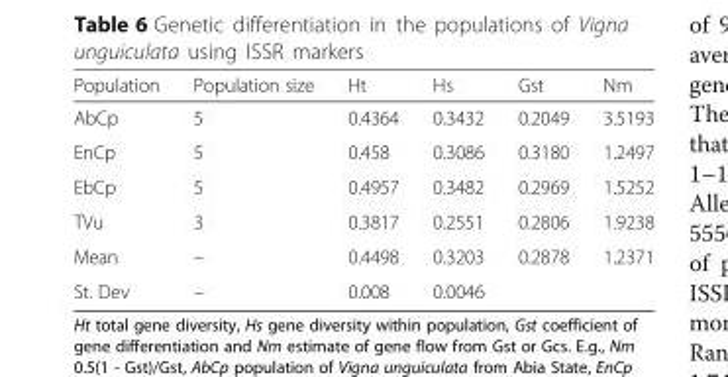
<table><thead><tr><td>Population</td><td>Population size</td><td>Ht</td><td>Hs</td><td>Gst</td><td>Nm</td></tr></thead><tbody><tr><td>AbCp</td><td>5</td><td>0.4364</td><td>0.3432</td><td>0.2049</td><td>3.5193</td></tr><tr><td>EnCp</td><td>5</td><td>0.458</td><td>0.3086</td><td>0.3180</td><td>1.2497</td></tr><tr><td>EbCp</td><td>5</td><td>0.4957</td><td>0.3482</td><td>0.2969</td><td>1.5252</td></tr><tr><td>TVu</td><td>3</td><td>0.3817</td><td>0.2551</td><td>0.2806</td><td>1.9238</td></tr><tr><td>Mean</td><td>–</td><td>0.4498</td><td>0.3203</td><td>0.2878</td><td>1.2371</td></tr><tr><td>St. Dev</td><td>–</td><td>0.008</td><td>0.0046</td><td></td><td></td></tr></tbody></table>